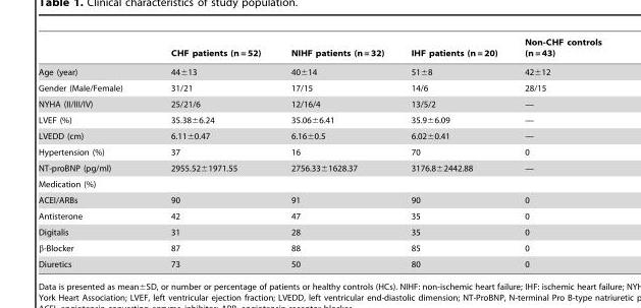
<table><thead><tr><td></td><td>CHF patients (n = 52)</td><td>NIHF patients (n = 32)</td><td>IHF patients (n = 20)</td><td>Non-CHF controls (n = 43)</td></tr></thead><tbody><tr><td>Age (year)</td><td>44±13</td><td>40±14</td><td>51±8</td><td>42±12</td></tr><tr><td>Gender (Male/Female)</td><td>31/21</td><td>17/15</td><td>14/6</td><td>28/15</td></tr><tr><td>NYHA (II/III/IV)</td><td>25/21/6</td><td>12/16/4</td><td>13/5/2</td><td>—</td></tr><tr><td>LVEF (%)</td><td>35.38±6.24</td><td>35.06±6.41</td><td>35.9±6.09</td><td>—</td></tr><tr><td>LVEDD (cm)</td><td>6.11±0.47</td><td>6.16±0.5</td><td>6.02±0.41</td><td>—</td></tr><tr><td>Hypertension (%)</td><td>37</td><td>16</td><td>70</td><td>0</td></tr><tr><td>NT-proBNP (pg/ml)</td><td>2955.52±1971.55</td><td>2756.33±1628.37</td><td>3176.8±2442.88</td><td>—</td></tr><tr><td colspan="5">Medication (%)</td></tr><tr><td>ACEI/ARBs</td><td>90</td><td>91</td><td>90</td><td>0</td></tr><tr><td>Antisterone</td><td>42</td><td>47</td><td>35</td><td>0</td></tr><tr><td>Digitalis</td><td>31</td><td>28</td><td>35</td><td>0</td></tr><tr><td>β-Blocker</td><td>87</td><td>88</td><td>85</td><td>0</td></tr><tr><td>Diuretics</td><td>73</td><td>50</td><td>80</td><td>0</td></tr></tbody></table>